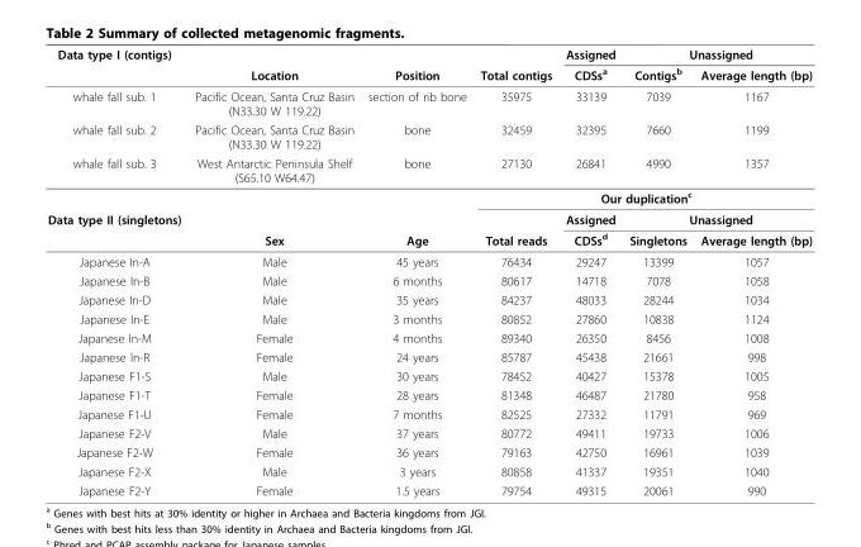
<table><thead><tr><td rowspan="2">Data type I (contigs)</td><td rowspan="2">Location</td><td rowspan="2">Position</td><td rowspan="2">Total contigs</td><td rowspan="2">Assigned CDSsa</td><td colspan="2">Unassigned</td></tr><tr><td>Contigs<sup>b</sup></td><td>Average length (bp)</td></tr></thead><tbody><tr><td>whale fall sub. 1</td><td>Pacific Ocean, Santa Cruz Basin (N33.30 W 119.22)</td><td>section of rib bone</td><td>35975</td><td>33139</td><td>7039</td><td>1167</td></tr><tr><td>whale fall sub. 2</td><td>Pacific Ocean, Santa Cruz Basin (N33.30 W 119.22)</td><td>bone</td><td>32459</td><td>32395</td><td>7660</td><td>1199</td></tr><tr><td rowspan="2">whale fall sub. 3</td><td>West Antarctic Peninsula Shelf (S65.10 W64.47)</td><td>bone</td><td>27130</td><td>26841</td><td>4990</td><td>1357</td></tr><tr><td></td><td></td><td colspan="4">Our duplication<sup>c</sup></td></tr><tr><td rowspan="2">Data type II (singletons)</td><td></td><td></td><td></td><td>Assigned</td><td colspan="2">Unassigned</td></tr><tr><td>Sex</td><td>Age</td><td>Total reads</td><td>CDSs<sup>d</sup></td><td>Singletons</td><td>Average length (bp)</td></tr><tr><td>Japanese In-A</td><td>Male</td><td>45 years</td><td>76434</td><td>29247</td><td>13399</td><td>1057</td></tr><tr><td>Japanese In-B</td><td>Male</td><td>6 months</td><td>80617</td><td>14718</td><td>7078</td><td>1058</td></tr><tr><td>Japanese In-D</td><td>Male</td><td>35 years</td><td>84237</td><td>48033</td><td>28244</td><td>1034</td></tr><tr><td>Japanese In-E</td><td>Male</td><td>3 months</td><td>80852</td><td>27860</td><td>10838</td><td>1124</td></tr><tr><td>Japanese In-M</td><td>Female</td><td>4 months</td><td>89340</td><td>26350</td><td>8456</td><td>1008</td></tr><tr><td>Japanese In-R</td><td>Female</td><td>24 years</td><td>85787</td><td>45438</td><td>21661</td><td>998</td></tr><tr><td>Japanese F1-S</td><td>Male</td><td>30 years</td><td>78452</td><td>40427</td><td>15378</td><td>1005</td></tr><tr><td>Japanese F1-T</td><td>Female</td><td>28 years</td><td>81348</td><td>46487</td><td>21780</td><td>958</td></tr><tr><td>Japanese F1-U</td><td>Female</td><td>7 months</td><td>82525</td><td>27332</td><td>11791</td><td>969</td></tr><tr><td>Japanese F2-V</td><td>Male</td><td>37 years</td><td>80772</td><td>49411</td><td>19733</td><td>1006</td></tr><tr><td>Japanese F2-W</td><td>Female</td><td>36 years</td><td>79163</td><td>42750</td><td>16961</td><td>1039</td></tr><tr><td>Japanese F2-X</td><td>Male</td><td>3 years</td><td>80858</td><td>41337</td><td>19351</td><td>1040</td></tr><tr><td>Japanese F2-Y</td><td>Female</td><td>1.5 years</td><td>79754</td><td>49315</td><td>20061</td><td>990</td></tr></tbody></table>